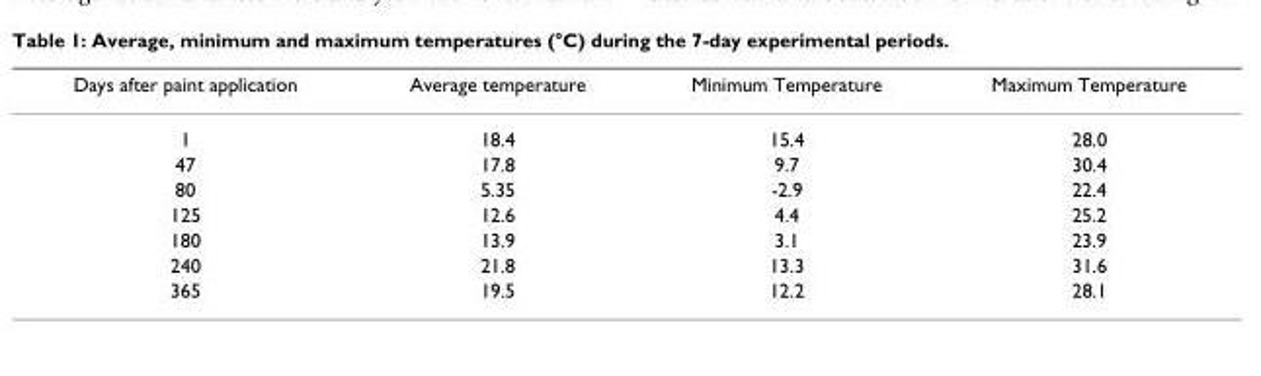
<table><thead><tr><td>Days after paint application</td><td>Average temperature</td><td>Minimum Temperature</td><td>Maximum Temperature</td></tr></thead><tbody><tr><td>1</td><td>18.4</td><td>15.4</td><td>28.0</td></tr><tr><td>47</td><td>17.8</td><td>9.7</td><td>30.4</td></tr><tr><td>80</td><td>5.35</td><td>-2.9</td><td>22.4</td></tr><tr><td>125</td><td>12.6</td><td>4.4</td><td>25.2</td></tr><tr><td>180</td><td>13.9</td><td>3.1</td><td>23.9</td></tr><tr><td>240</td><td>21.8</td><td>13.3</td><td>31.6</td></tr><tr><td>365</td><td>19.5</td><td>12.2</td><td>28.1</td></tr></tbody></table>